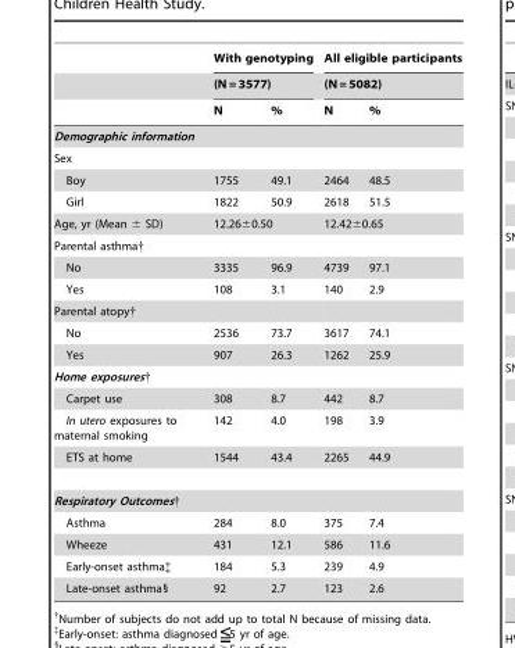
<table><thead><tr><td rowspan="3"></td><td rowspan="2" colspan="2">With genotyping (N = 3577)</td><td rowspan="2" colspan="2">All eligible participants (N = 5082)</td></tr><tr></tr><tr><td>N</td><td>%</td><td>N</td><td>%</td></tr></thead><tbody><tr><td colspan="5">Demographic information</td></tr><tr><td colspan="5">Sex</td></tr><tr><td>Boy</td><td>1755</td><td>49.1</td><td>2464</td><td>48.5</td></tr><tr><td>Girl</td><td>1822</td><td>50.9</td><td>2618</td><td>51.5</td></tr><tr><td>Age, yr (Mean ± SD)</td><td colspan="2">12.26±0.50</td><td colspan="2">12.42±0.65</td></tr><tr><td colspan="5">Parental asthma†</td></tr><tr><td>No</td><td>3335</td><td>96.9</td><td>4739</td><td>97.1</td></tr><tr><td>Yes</td><td>108</td><td>3.1</td><td>140</td><td>2.9</td></tr><tr><td colspan="5">Parental atopy†</td></tr><tr><td>No</td><td>2536</td><td>73.7</td><td>3617</td><td>74.1</td></tr><tr><td>Yes</td><td>907</td><td>26.3</td><td>1262</td><td>25.9</td></tr><tr><td colspan="5">Home exposures†</td></tr><tr><td>Carpet use</td><td>308</td><td>8.7</td><td>442</td><td>8.7</td></tr><tr><td>In utero exposures to maternal smoking</td><td>142</td><td>4.0</td><td>198</td><td>3.9</td></tr><tr><td>ETS at home</td><td>1544</td><td>43.4</td><td>2265</td><td>44.9</td></tr><tr><td colspan="5">Respiratory Outcomes†</td></tr><tr><td>Asthma</td><td>284</td><td>8.0</td><td>375</td><td>7.4</td></tr><tr><td>Wheeze</td><td>431</td><td>12.1</td><td>586</td><td>11.6</td></tr><tr><td>Early-onset asthma‡</td><td>184</td><td>5.3</td><td>239</td><td>4.9</td></tr><tr><td>Late-onset asthma§</td><td>92</td><td>2.7</td><td>123</td><td>2.6</td></tr></tbody></table>